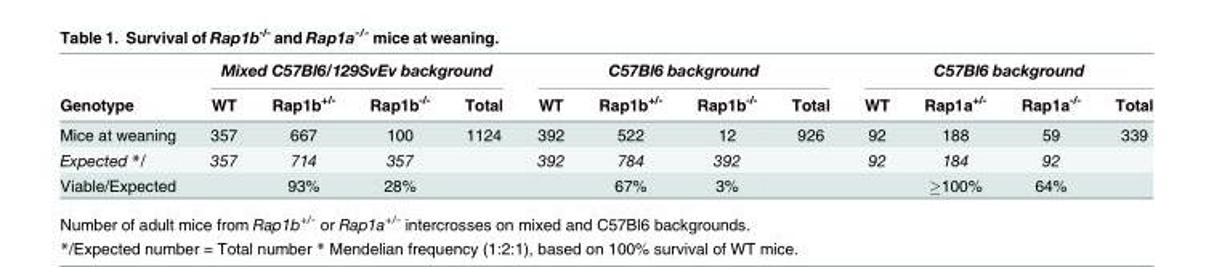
<table><thead><tr><td rowspan="2">Genotype</td><td colspan="4">Mixed C57Bl6/129SvEv background</td><td colspan="4">C57Bl6 background</td><td colspan="4">C57Bl6 background</td></tr><tr><td>WT</td><td>Rap1b<sup>+/-</sup></td><td>Rap1b<sup>-/-</sup></td><td>Total</td><td>WT</td><td>Rap1b<sup>+/-</sup></td><td>Rap1b<sup>-/-</sup></td><td>Total</td><td>WT</td><td>Rap1a<sup>+/-</sup></td><td>Rap1a<sup>-/-</sup></td><td>Total</td></tr></thead><tbody><tr><td>Mice at weaning</td><td>357</td><td>667</td><td>100</td><td>1124</td><td>392</td><td>522</td><td>12</td><td>926</td><td>92</td><td>188</td><td>59</td><td>339</td></tr><tr><td>Expected */</td><td>357</td><td>714</td><td>357</td><td></td><td>392</td><td>784</td><td>392</td><td></td><td>92</td><td>184</td><td>92</td><td></td></tr><tr><td>Viable/Expected</td><td></td><td>93%</td><td>28%</td><td></td><td></td><td>67%</td><td>3%</td><td></td><td></td><td>≥100%</td><td>64%</td><td></td></tr></tbody></table>